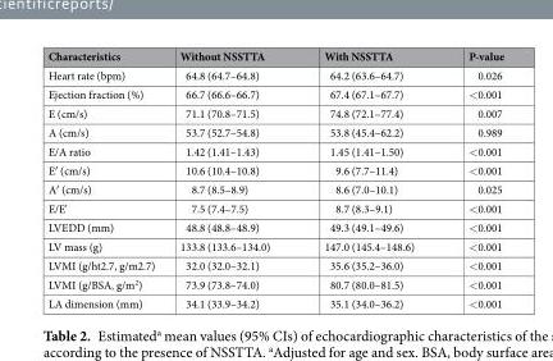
<table><thead><tr><td>Characteristics</td><td>Without NSSTTA</td><td>With NSSTTA</td><td>P-value</td></tr></thead><tbody><tr><td>Heart rate (bpm)</td><td>64.8 (64.7–64.8)</td><td>64.2 (63.6–64.7)</td><td>0.026</td></tr><tr><td>Ejection fraction (%)</td><td>66.7 (66.6–66.7)</td><td>67.4 (67.1–67.7)</td><td>&lt;0.001</td></tr><tr><td>E (cm/s)</td><td>71.1 (70.8–71.5)</td><td>74.8 (72.1–77.4)</td><td>0.007</td></tr><tr><td>A (cm/s)</td><td>53.7 (52.7–54.8)</td><td>53.8 (45.4–62.2)</td><td>0.989</td></tr><tr><td>E/A ratio</td><td>1.42 (1.41–1.43)</td><td>1.45 (1.41–1.50)</td><td>&lt;0.001</td></tr><tr><td>E′ (cm/s)</td><td>10.6 (10.4–10.8)</td><td>9.6 (7.7–11.4)</td><td>&lt;0.001</td></tr><tr><td>A′ (cm/s)</td><td>8.7 (8.5–8.9)</td><td>8.6 (7.0–10.1)</td><td>0.025</td></tr><tr><td>E/E&#x27;</td><td>7.5 (7.4–7.5)</td><td>8.7 (8.3–9.1)</td><td>&lt;0.001</td></tr><tr><td>LVEDD (mm)</td><td>48.8 (48.8–48.9)</td><td>49.3 (49.1–49.6)</td><td>&lt;0.001</td></tr><tr><td>LV mass (g)</td><td>133.8 (133.6–134.0)</td><td>147.0 (145.4–148.6)</td><td>&lt;0.001</td></tr><tr><td>LVMI (g/ht2.7, g/m2.7)</td><td>32.0 (32.0–32.1)</td><td>35.6 (35.2–36.0)</td><td>&lt;0.001</td></tr><tr><td>LVMI (g/BSA, g/m<sup>2</sup>)</td><td>73.9 (73.8–74.0)</td><td>80.7 (80.0–81.5)</td><td>&lt;0.001</td></tr><tr><td>LA dimension (mm)</td><td>34.1 (33.9–34.2)</td><td>35.1 (34.0–36.2)</td><td>&lt;0.001</td></tr></tbody></table>